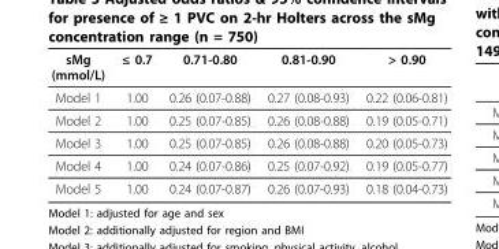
<table><thead><tr><td>sMg (mmol/L)</td><td>≤ 0.7</td><td>0.71-0.80</td><td>0.81-0.90</td><td>&gt; 0.90</td></tr></thead><tbody><tr><td>Model 1</td><td>1.00</td><td>0.26 (0.07-0.88)</td><td>0.27 (0.08-0.93)</td><td>0.22 (0.06-0.81)</td></tr><tr><td>Model 2</td><td>1.00</td><td>0.25 (0.07-0.85)</td><td>0.26 (0.08-0.88)</td><td>0.19 (0.05-0.71)</td></tr><tr><td>Model 3</td><td>1.00</td><td>0.25 (0.07-0.85)</td><td>0.26 (0.08-0.88)</td><td>0.20 (0.05-0.73)</td></tr><tr><td>Model 4</td><td>1.00</td><td>0.24 (0.07-0.86)</td><td>0.25 (0.07-0.92)</td><td>0.19 (0.05-0.77)</td></tr><tr><td>Model 5</td><td>1.00</td><td>0.24 (0.07-0.87)</td><td>0.26 (0.07-0.93)</td><td>0.18 (0.04-0.73)</td></tr></tbody></table>